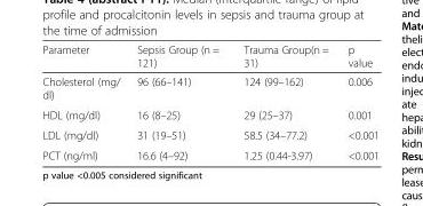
<table><thead><tr><td>Parameter</td><td>Sepsis Group (n = 121)</td><td>Trauma Group(n = 31)</td><td>p value</td></tr></thead><tbody><tr><td>Cholesterol (mg/ dl)</td><td>96 (66–141)</td><td>124 (99–162)</td><td>0.006</td></tr><tr><td>HDL (mg/dl)</td><td>16 (8–25)</td><td>29 (25–37)</td><td>0.001</td></tr><tr><td>LDL (mg/dl)</td><td>31 (19–51)</td><td>58.5 (34–77.2)</td><td>&lt;0.001</td></tr><tr><td>PCT (ng/ml)</td><td>16.6 (4–92)</td><td>1.25 (0.44-3.97)</td><td>&lt;0.001</td></tr></tbody></table>